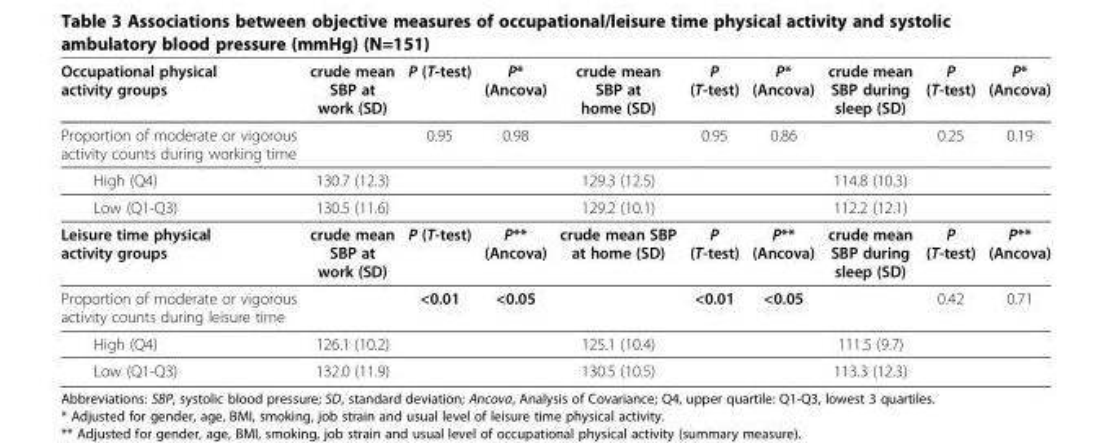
<table><thead><tr><td>Occupational physical activity groups</td><td>crude mean SBP at work (SD)</td><td>P (T-test)</td><td>P* (Ancova)</td><td>crude mean SBP at home (SD)</td><td>P (T-test)</td><td>P* (Ancova)</td><td>crude mean SBP during sleep (SD)</td><td>P (T-test)</td><td>P* (Ancova)</td></tr></thead><tbody><tr><td>Proportion of moderate or vigorous activity counts during working time</td><td></td><td>0.95</td><td>0.98</td><td></td><td>0.95</td><td>0.86</td><td></td><td>0.25</td><td>0.19</td></tr><tr><td>High (Q4)</td><td>130.7 (12.3)</td><td></td><td></td><td>129.3 (12.5)</td><td></td><td></td><td>114.8 (10.3)</td><td></td><td></td></tr><tr><td>Low (Q1-Q3)</td><td>130.5 (11.6)</td><td></td><td></td><td>129.2 (10.1)</td><td></td><td></td><td>112.2 (12.1)</td><td></td><td></td></tr><tr><td>Leisure time physical activity groups</td><td>crude mean SBP at work (SD)</td><td>P (T-test)</td><td>P** (Ancova)</td><td>crude mean SBP at home (SD)</td><td>P (T-test)</td><td>P** (Ancova)</td><td>crude mean SBP during sleep (SD)</td><td>P (T-test)</td><td>P** (Ancova)</td></tr><tr><td>Proportion of moderate or vigorous activity counts during leisure time</td><td></td><td>&lt;0.01</td><td>&lt;0.05</td><td></td><td>&lt;0.01</td><td>&lt;0.05</td><td></td><td>0.42</td><td>0.71</td></tr><tr><td>High (Q4)</td><td>126.1 (10.2)</td><td></td><td></td><td>125.1 (10.4)</td><td></td><td></td><td>111.5 (9.7)</td><td></td><td></td></tr><tr><td>Low (Q1-Q3)</td><td>132.0 (11.9)</td><td></td><td></td><td>130.5 (10.5)</td><td></td><td></td><td>113.3 (12.3)</td><td></td><td></td></tr></tbody></table>